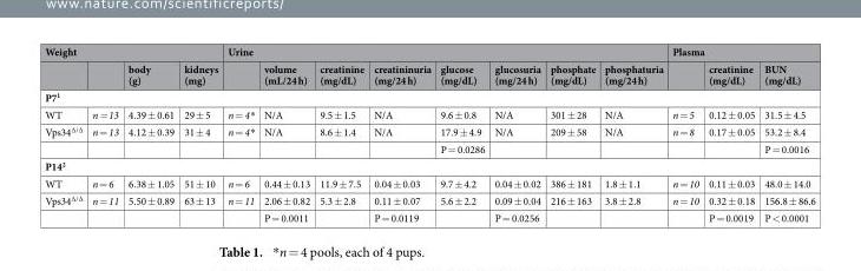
<table><thead><tr><td colspan="4">Weight</td><td colspan="8">Urine</td><td colspan="3">Plasma</td></tr><tr><td></td><td></td><td>body (g)</td><td>kidneys (mg)</td><td></td><td>volume (mL/24 h)</td><td>creatinine (mg/dL)</td><td>creatininuria (mg/24 h)</td><td>glucose (mg/dL)</td><td>glucosuria (mg/24 h)</td><td>phosphate (mg/dL)</td><td>phosphaturia (mg/24 h)</td><td></td><td>creatinine (mg/dL)</td><td>BUN (mg/dL)</td></tr></thead><tbody><tr><td colspan="15">P7<sup>1</sup></td></tr><tr><td>WT</td><td>n = 13</td><td>4.39 ± 0.61</td><td>29 ± 5</td><td>n = 4*</td><td>N/A</td><td>9.5 ± 1.5</td><td>N/A</td><td>9.6 ± 0.8</td><td>N/A</td><td>301 ± 28</td><td>N/A</td><td>n = 5</td><td>0.12 ± 0.05</td><td>31.5 ± 4.5</td></tr><tr><td rowspan="2">Vps34<sup>∆/∆</sup></td><td>n = 13</td><td>4.12 ± 0.39</td><td>31 ± 4</td><td>n = 4*</td><td>N/A</td><td>8.6 ± 1.4</td><td>N/A</td><td>17.9 ± 4.9</td><td>N/A</td><td>209 ± 58</td><td>N/A</td><td>n = 8</td><td>0.17 ± 0.05</td><td>53.2 ± 8.4</td></tr><tr><td></td><td></td><td></td><td></td><td></td><td></td><td></td><td>P = 0.0286</td><td></td><td></td><td></td><td></td><td></td><td>P = 0.0016</td></tr><tr><td colspan="15">P14<sup>2</sup></td></tr><tr><td>WT</td><td>n = 6</td><td>6.38 ± 1.05</td><td>51 ± 10</td><td>n = 6</td><td>0.44 ± 0.13</td><td>11.9 ± 7.5</td><td>0.04 ± 0.03</td><td>9.7 ± 4.2</td><td>0.04 ± 0.02</td><td>386 ± 181</td><td>1.8 ± 1.1</td><td>n = 10</td><td>0.11 ± 0.03</td><td>48.0 ± 14.0</td></tr><tr><td rowspan="2">Vps34<sup>∆/∆</sup></td><td>n = 11</td><td>5.50 ± 0.89</td><td>63 ± 13</td><td>n = 11</td><td>2.06 ± 0.82</td><td>5.3 ± 2.8</td><td>0.11 ± 0.07</td><td>5.6 ± 2.2</td><td>0.09 ± 0.04</td><td>216 ± 163</td><td>3.8 ± 2.8</td><td>n = 10</td><td>0.32 ± 0.18</td><td>156.8 ± 86.6</td></tr><tr><td></td><td></td><td></td><td></td><td>P = 0.0011</td><td></td><td>P = 0.0119</td><td></td><td>P = 0.0256</td><td></td><td></td><td></td><td>P = 0.0019</td><td>P &lt; 0.0001</td></tr></tbody></table>